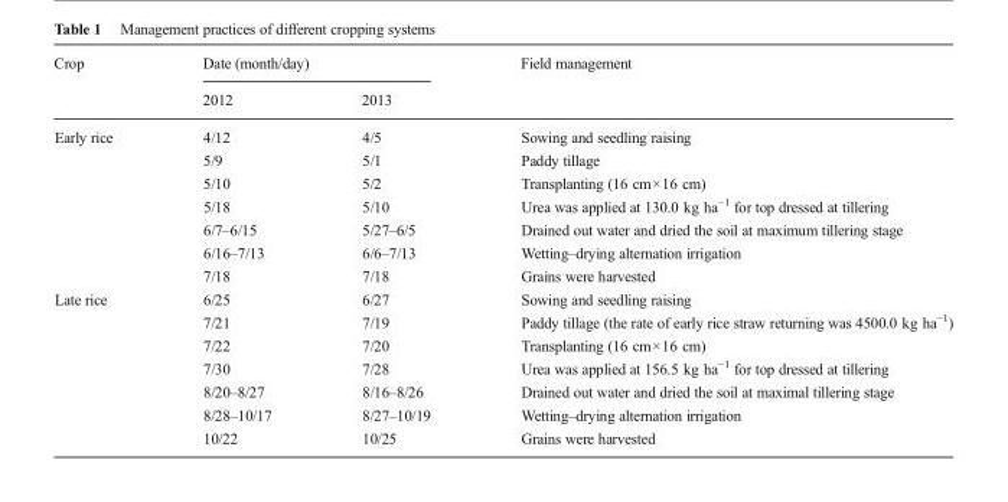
<table><thead><tr><td rowspan="2">Crop</td><td colspan="2">Date (month/day)</td><td rowspan="2">Field management</td></tr><tr><td>2012</td><td>2013</td></tr></thead><tbody><tr><td rowspan="7">Early rice</td><td>4/12</td><td>4/5</td><td>Sowing and seedling raising</td></tr><tr><td>5/9</td><td>5/1</td><td>Paddy tillage</td></tr><tr><td>5/10</td><td>5/2</td><td>Transplanting (16 cm×16 cm)</td></tr><tr><td>5/18</td><td>5/10</td><td>Urea was applied at 130.0 kg ha<sup>−1</sup> for top dressed at tillering</td></tr><tr><td>6/7–6/15</td><td>5/27–6/5</td><td>Drained out water and dried the soil at maximum tillering stage</td></tr><tr><td>6/16–7/13</td><td>6/6–7/13</td><td>Wetting–drying alternation irrigation</td></tr><tr><td>7/18</td><td>7/18</td><td>Grains were harvested</td></tr><tr><td rowspan="7">Late rice</td><td>6/25</td><td>6/27</td><td>Sowing and seedling raising</td></tr><tr><td>7/21</td><td>7/19</td><td>Paddy tillage (the rate of early rice straw returning was 4500.0 kg ha<sup>−1</sup>)</td></tr><tr><td>7/22</td><td>7/20</td><td>Transplanting (16 cm×16 cm)</td></tr><tr><td>7/30</td><td>7/28</td><td>Urea was applied at 156.5 kg ha<sup>−1</sup> for top dressed at tillering</td></tr><tr><td>8/20–8/27</td><td>8/16–8/26</td><td>Drained out water and dried the soil at maximal tillering stage</td></tr><tr><td>8/28–10/17</td><td>8/27–10/19</td><td>Wetting–drying alternation irrigation</td></tr><tr><td>10/22</td><td>10/25</td><td>Grains were harvested</td></tr></tbody></table>